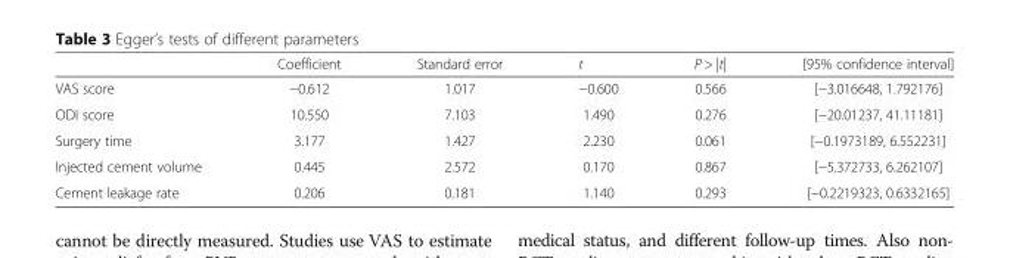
<table><thead><tr><td></td><td>Coefficient</td><td>Standard error</td><td>t</td><td>P &gt; |t|</td><td>[95% confidence interval]</td></tr></thead><tbody><tr><td>VAS score</td><td>−0.612</td><td>1.017</td><td>−0.600</td><td>0.566</td><td>[−3.016648, 1.792176]</td></tr><tr><td>ODI score</td><td>10.550</td><td>7.103</td><td>1.490</td><td>0.276</td><td>[−20.01237, 41.11181]</td></tr><tr><td>Surgery time</td><td>3.177</td><td>1.427</td><td>2.230</td><td>0.061</td><td>[−0.1973189, 6.552231]</td></tr><tr><td>Injected cement volume</td><td>0.445</td><td>2.572</td><td>0.170</td><td>0.867</td><td>[−5.372733, 6.262107]</td></tr><tr><td>Cement leakage rate</td><td>0.206</td><td>0.181</td><td>1.140</td><td>0.293</td><td>[−0.2219323, 0.6332165]</td></tr></tbody></table>